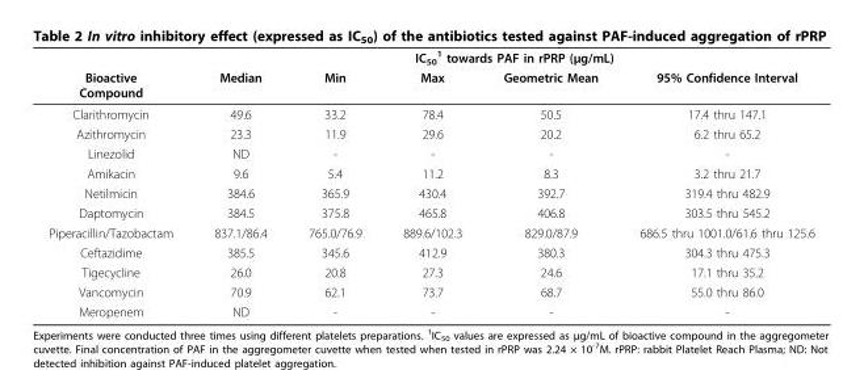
<table><thead><tr><td rowspan="2">Bioactive Compound</td><td colspan="5">IC<sub>50</sub> <sup>1</sup> towards PAF in rPRP (μg/mL)</td></tr><tr><td>Median</td><td>Min</td><td>Max</td><td>Geometric Mean</td><td>95% Confidence Interval</td></tr></thead><tbody><tr><td>Clarithromycin</td><td>49.6</td><td>33.2</td><td>78.4</td><td>50.5</td><td>17.4 thru 147.1</td></tr><tr><td>Azithromycin</td><td>23.3</td><td>11.9</td><td>29.6</td><td>20.2</td><td>6.2 thru 65.2</td></tr><tr><td>Linezolid</td><td>ND</td><td>-</td><td>-</td><td>-</td><td>-</td></tr><tr><td>Amikacin</td><td>9.6</td><td>5.4</td><td>11.2</td><td>8.3</td><td>3.2 thru 21.7</td></tr><tr><td>Netilmicin</td><td>384.6</td><td>365.9</td><td>430.4</td><td>392.7</td><td>319.4 thru 482.9</td></tr><tr><td>Daptomycin</td><td>384.5</td><td>375.8</td><td>465.8</td><td>406.8</td><td>303.5 thru 545.2</td></tr><tr><td>Piperacillin/Tazobactam</td><td>837.1/86.4</td><td>765.0/76.9</td><td>889.6/102.3</td><td>829.0/87.9</td><td>686.5 thru 1001.0/61.6 thru 125.6</td></tr><tr><td>Ceftazidime</td><td>385.5</td><td>345.6</td><td>412.9</td><td>380.3</td><td>304.3 thru 475.3</td></tr><tr><td>Tigecycline</td><td>26.0</td><td>20.8</td><td>27.3</td><td>24.6</td><td>17.1 thru 35.2</td></tr><tr><td>Vancomycin</td><td>70.9</td><td>62.1</td><td>73.7</td><td>68.7</td><td>55.0 thru 86.0</td></tr><tr><td>Meropenem</td><td>ND</td><td>-</td><td>-</td><td>-</td><td>-</td></tr></tbody></table>